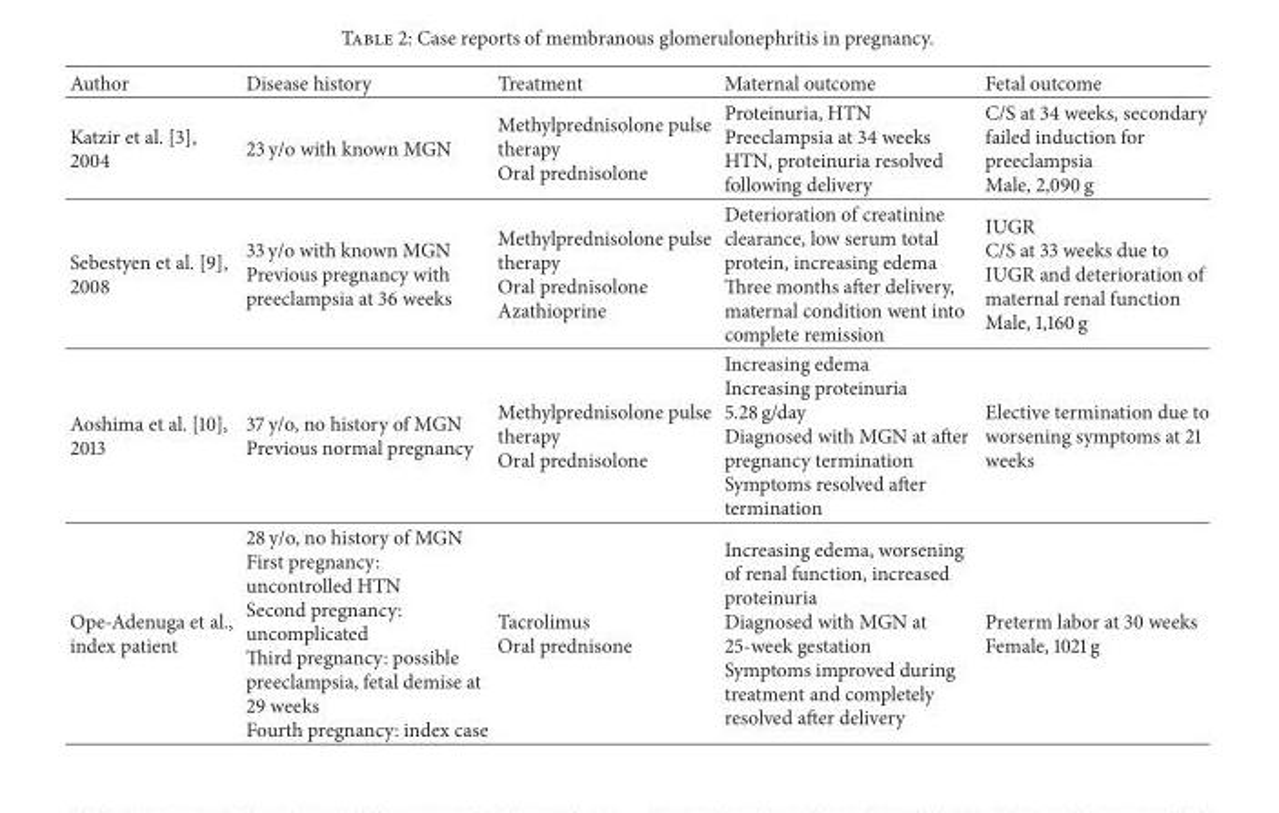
<table><thead><tr><td>Author</td><td>Disease history</td><td>Treatment</td><td>Maternal outcome</td><td>Fetal outcome</td></tr></thead><tbody><tr><td>Katzir et al. [3], 2004</td><td>23 y/o with known MGN</td><td>Methylprednisolone pulse therapy Oral prednisolone</td><td>Proteinuria, HTN Preeclampsia at 34 weeks HTN, proteinuria resolved following delivery</td><td>C/S at 34 weeks, secondary failed induction for preeclampsia Male, 2,090 g</td></tr><tr><td>Sebestyen et al. [9], 2008</td><td>33 y/o with known MGN Previous pregnancy with preeclampsia at 36 weeks</td><td>Methylprednisolone pulse therapy Oral prednisolone Azathioprine</td><td>Deterioration of creatinine clearance, low serum total protein, increasing edema Three months after delivery, maternal condition went into complete remission</td><td>IUGR C/S at 33 weeks due to IUGR and deterioration of maternal renal function Male, 1,160 g</td></tr><tr><td>Aoshima et al. [10], 2013</td><td>37 y/o, no history of MGN Previous normal pregnancy</td><td>Methylprednisolone pulse therapy Oral prednisolone</td><td>Increasing edema Increasing proteinuria 5.28 g/day Diagnosed with MGN at after pregnancy termination Symptoms resolved after termination</td><td>Elective termination due to worsening symptoms at 21 weeks</td></tr><tr><td>Ope-Adenuga et al., index patient</td><td>28 y/o, no history of MGN First pregnancy: uncontrolled HTN Second pregnancy: uncomplicated Third pregnancy: possible preeclampsia, fetal demise at 29 weeks Fourth pregnancy: index case</td><td>Tacrolimus Oral prednisone</td><td>Increasing edema, worsening of renal function, increased proteinuria Diagnosed with MGN at 25-week gestation Symptoms improved during treatment and completely resolved after delivery</td><td>Preterm labor at 30 weeks Female, 1021 g</td></tr></tbody></table>